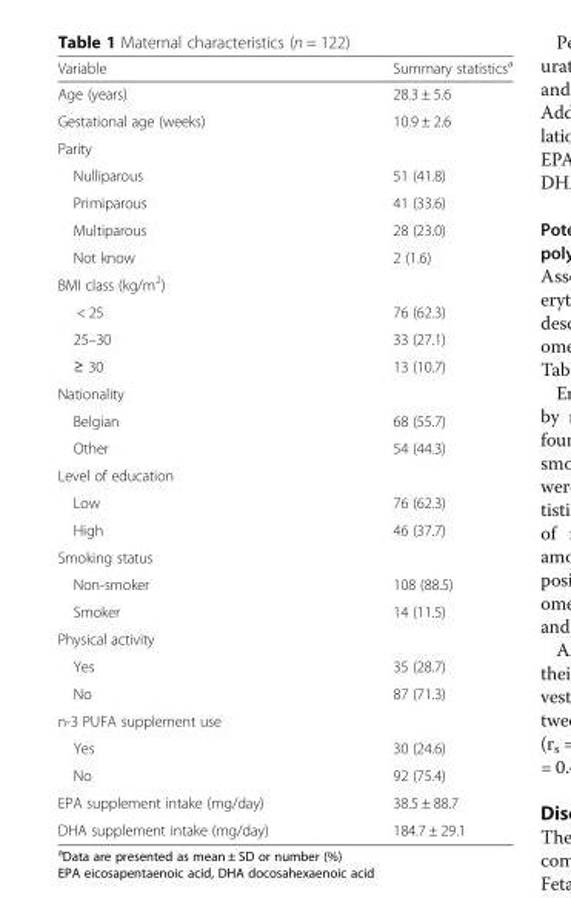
<table><thead><tr><td>Variable</td><td>Summary statistics<sup>a</sup></td></tr></thead><tbody><tr><td>Age (years)</td><td>28.3 ± 5.6</td></tr><tr><td>Gestational age (weeks)</td><td>10.9 ± 2.6</td></tr><tr><td colspan="2">Parity</td></tr><tr><td>Nulliparous</td><td>51 (41.8)</td></tr><tr><td>Primiparous</td><td>41 (33.6)</td></tr><tr><td>Multiparous</td><td>28 (23.0)</td></tr><tr><td>Not know</td><td>2 (1.6)</td></tr><tr><td colspan="2">BMI class (kg/m<sup>2</sup>)</td></tr><tr><td>&lt; 25</td><td>76 (62.3)</td></tr><tr><td>25–30</td><td>33 (27.1)</td></tr><tr><td>≥ 30</td><td>13 (10.7)</td></tr><tr><td colspan="2">Nationality</td></tr><tr><td>Belgian</td><td>68 (55.7)</td></tr><tr><td>Other</td><td>54 (44.3)</td></tr><tr><td colspan="2">Level of education</td></tr><tr><td>Low</td><td>76 (62.3)</td></tr><tr><td>High</td><td>46 (37.7)</td></tr><tr><td colspan="2">Smoking status</td></tr><tr><td>Non-smoker</td><td>108 (88.5)</td></tr><tr><td>Smoker</td><td>14 (11.5)</td></tr><tr><td colspan="2">Physical activity</td></tr><tr><td>Yes</td><td>35 (28.7)</td></tr><tr><td>No</td><td>87 (71.3)</td></tr><tr><td colspan="2">n-3 PUFA supplement use</td></tr><tr><td>Yes</td><td>30 (24.6)</td></tr><tr><td>No</td><td>92 (75.4)</td></tr><tr><td>EPA supplement intake (mg/day)</td><td>38.5 ± 88.7</td></tr><tr><td>DHA supplement intake (mg/day)</td><td>184.7 ± 29.1</td></tr></tbody></table>